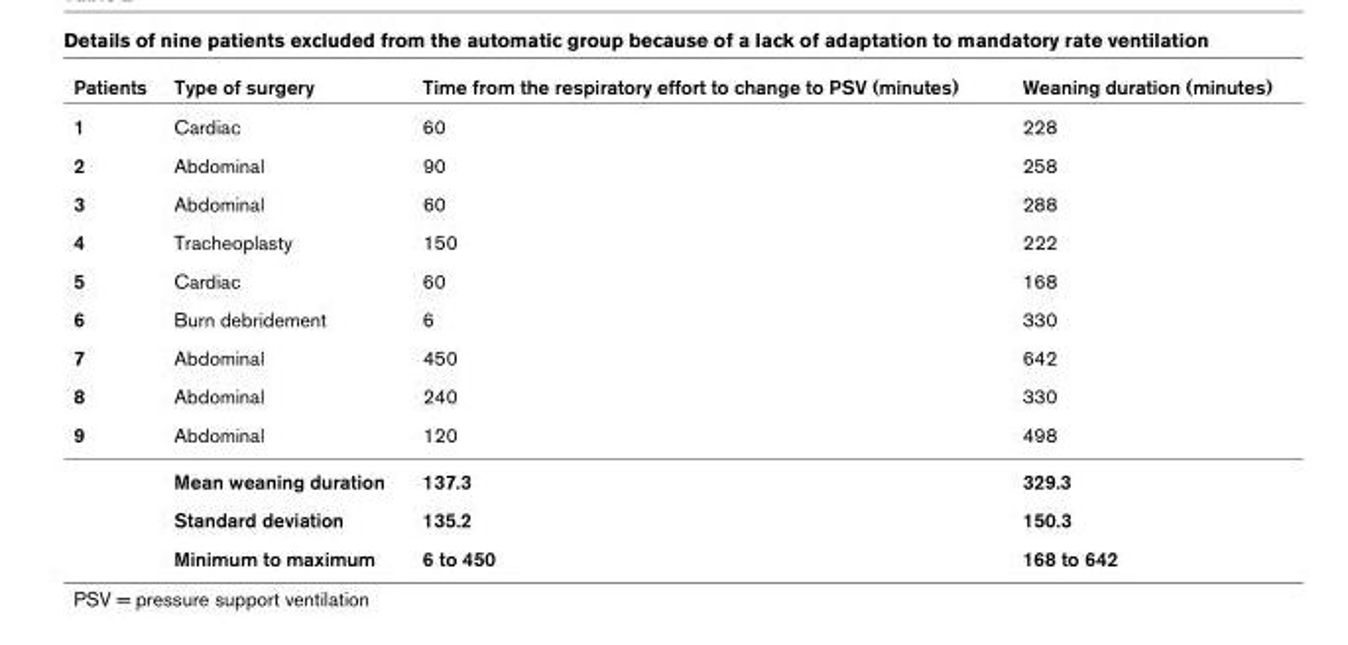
<table><thead><tr><td>Patients</td><td>Type of surgery</td><td>Time from the respiratory effort to change to PSV (minutes)</td><td>Weaning duration (minutes)</td></tr></thead><tbody><tr><td>1</td><td>Cardiac</td><td>60</td><td>228</td></tr><tr><td>2</td><td>Abdominal</td><td>90</td><td>258</td></tr><tr><td>3</td><td>Abdominal</td><td>60</td><td>288</td></tr><tr><td>4</td><td>Tracheoplasty</td><td>150</td><td>222</td></tr><tr><td>5</td><td>Cardiac</td><td>60</td><td>168</td></tr><tr><td>6</td><td>Burn debridement</td><td>6</td><td>330</td></tr><tr><td>7</td><td>Abdominal</td><td>450</td><td>642</td></tr><tr><td>8</td><td>Abdominal</td><td>240</td><td>330</td></tr><tr><td rowspan="4">9</td><td>Abdominal</td><td>120</td><td>498</td></tr><tr><td>Mean weaning duration</td><td>137.3</td><td>329.3</td></tr><tr><td>Standard deviation</td><td>135.2</td><td>150.3</td></tr><tr><td>Minimum to maximum</td><td>6 to 450</td><td>168 to 642</td></tr></tbody></table>